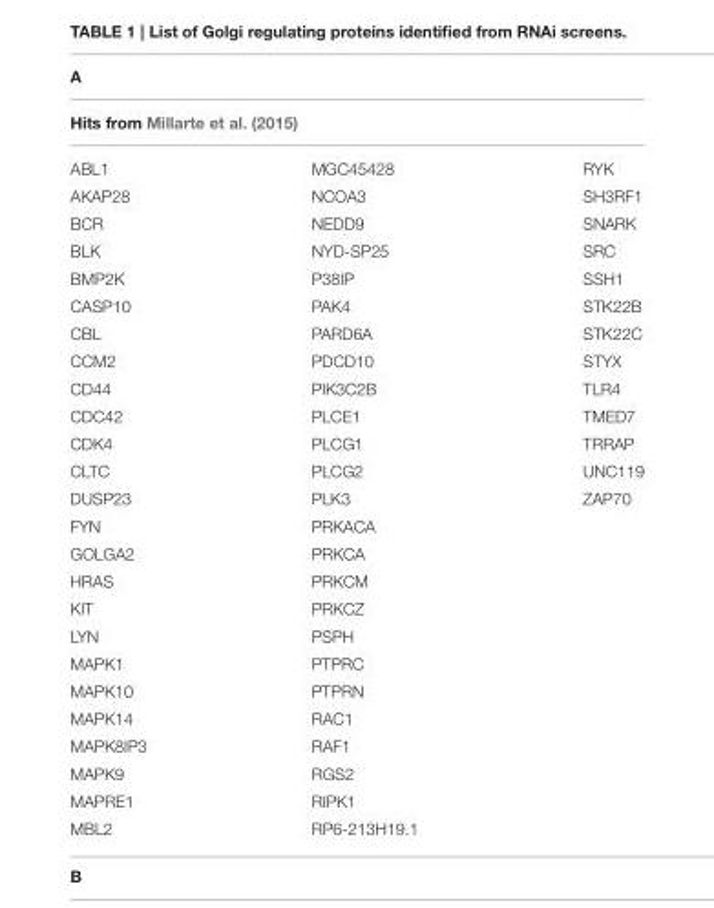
<table><thead><tr><td rowspan="2" colspan="3">A Hits from Millarte et al. (2015)</td></tr><tr></tr><tr><td>ABL1</td><td>MGC45428</td><td>RYK</td></tr></thead><tbody><tr><td>AKAP28</td><td>NCOA3</td><td>SH3RF1</td></tr><tr><td>BCR</td><td>NEDD9</td><td>SNARK</td></tr><tr><td>BLK</td><td>NYD-SP25</td><td>SRC</td></tr><tr><td>BMP2K</td><td>P38IP</td><td>SSH1</td></tr><tr><td>CASP10</td><td>PAK4</td><td>STK22B</td></tr><tr><td>CBL</td><td>PARD6A</td><td>STK22C</td></tr><tr><td>CCM2</td><td>PDCD10</td><td>STYX</td></tr><tr><td>CD44</td><td>PIK3C2B</td><td>TLR4</td></tr><tr><td>CDC42</td><td>PLCE1</td><td>TMED7</td></tr><tr><td>CDK4</td><td>PLCG1</td><td>TRRAP</td></tr><tr><td>CLTC</td><td>PLCG2</td><td>UNC119</td></tr><tr><td>DUSP23</td><td>PLK3</td><td>ZAP70</td></tr><tr><td>FYN</td><td>PRKACA</td><td></td></tr><tr><td>GOLGA2</td><td>PRKCA</td><td></td></tr><tr><td>HRAS</td><td>PRKCM</td><td></td></tr><tr><td>KIT</td><td>PRKCZ</td><td></td></tr><tr><td>LYN</td><td>PSPH</td><td></td></tr><tr><td>MAPK1</td><td>PTPRC</td><td></td></tr><tr><td>MAPK10</td><td>PTPRN</td><td></td></tr><tr><td>MAPK14</td><td>RAC1</td><td></td></tr><tr><td>MAPK8IP3</td><td>RAF1</td><td></td></tr><tr><td>MAPK9</td><td>RGS2</td><td></td></tr><tr><td>MAPRE1</td><td>RIPK1</td><td></td></tr><tr><td>MBL2</td><td>RP6-213H19.1</td><td></td></tr></tbody></table>